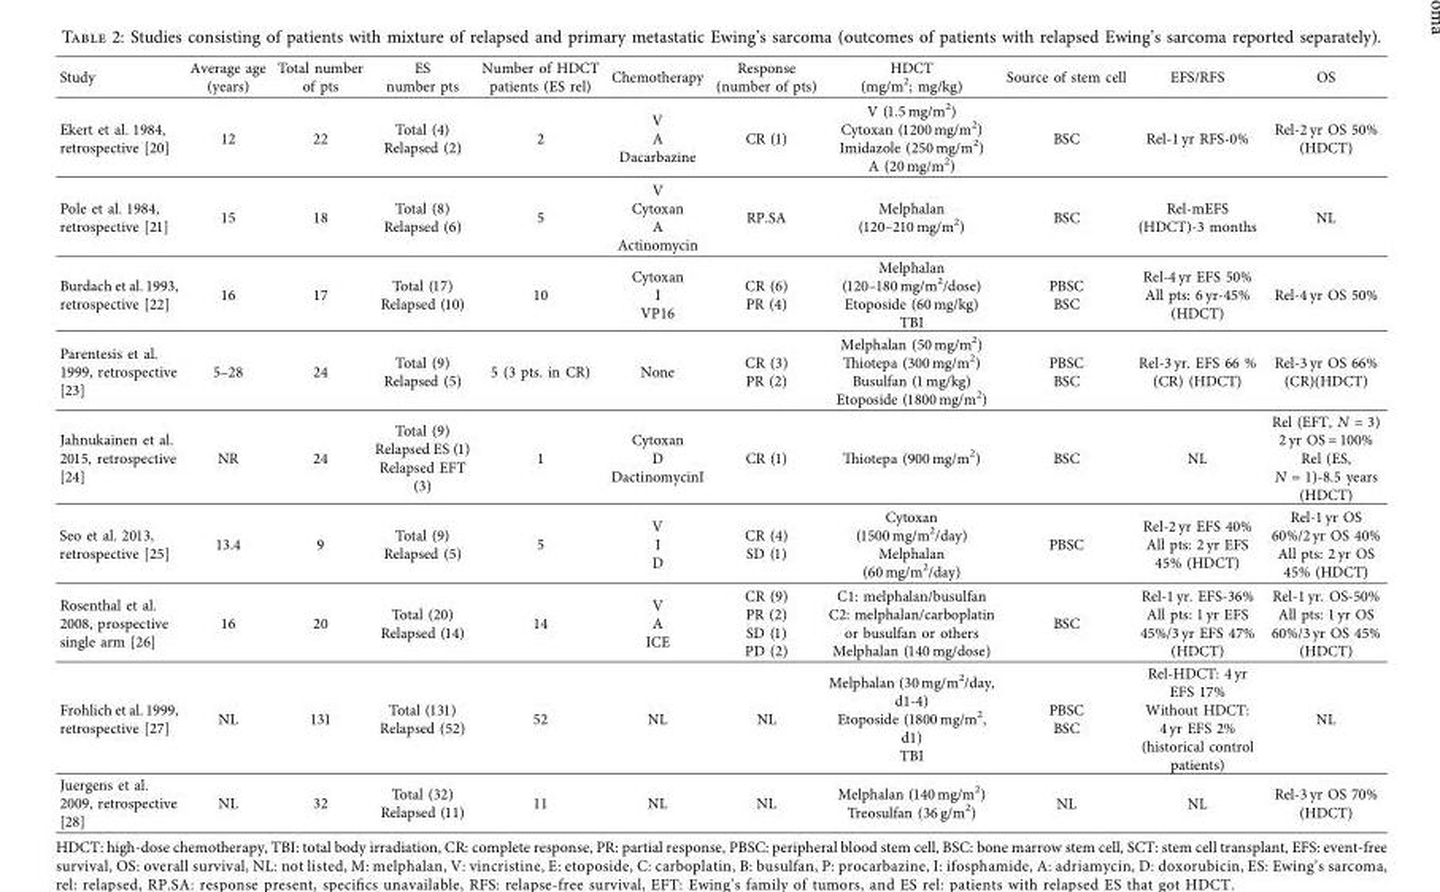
<table><thead><tr><td>Study</td><td>Average age (years)</td><td>Total number of pts</td><td>ES number pts</td><td>Number of HDCT patients (ES rel)</td><td>Chemotherapy</td><td>Response (number of pts)</td><td>HDCT (mg/m<sup>2</sup>; mg/kg)</td><td>Source of stem cell</td><td>EFS/RFS</td><td>OS</td></tr></thead><tbody><tr><td>Ekert et al. 1984, retrospective [20]</td><td>12</td><td>22</td><td>Total (4) Relapsed (2)</td><td>2</td><td>V A Dacarbazine</td><td>CR (1)</td><td>V (1.5 mg/m<sup>2</sup>) Cytoxan (1200 mg/m<sup>2</sup>) Imidazole (250 mg/m<sup>2</sup>) A (20 mg/m<sup>2</sup>)</td><td>BSC</td><td>Rel-1 yr RFS-0%</td><td>Rel-2 yr OS 50% (HDCT)</td></tr><tr><td>Pole et al. 1984, retrospective [21]</td><td>15</td><td>18</td><td>Total (8) Relapsed (6)</td><td>5</td><td>V Cytoxan A Actinomycin</td><td>RP.SA</td><td>Melphalan (120–210 mg/m<sup>2</sup>)</td><td>BSC</td><td>Rel-mEFS (HDCT)-3 months</td><td>NL</td></tr><tr><td>Burdach et al.1993, retrospective [22]</td><td>16</td><td>17</td><td>Total (17) Relapsed (10)</td><td>10</td><td>Cytoxan I VP16</td><td>CR (6) PR (4)</td><td>Melphalan (120–180 mg/m<sup>2</sup>/dose) Etoposide (60 mg/kg) TBI</td><td>PBSC BSC</td><td>Rel-4 yr EFS 50% All pts: 6 yr-45% (HDCT)</td><td>Rel-4 yr OS 50%</td></tr><tr><td>Parentesis et al. 1999, retrospective [23]</td><td>5–28</td><td>24</td><td>Total (9) Relapsed (5)</td><td>5 (3 pts. in CR)</td><td>None</td><td>CR (3) PR (2)</td><td>Melphalan (50 mg/m2) Tiotepa (300 mg/m2) Busulfan (1 mg/kg) Etoposide (1800 mg/m2)</td><td>PBSC BSC</td><td>Rel-3 yr. EFS 66 % (CR) (HDCT)</td><td>Rel-3 yr OS 66% (CR)(HDCT)</td></tr><tr><td>Jahnukainen et al. 2015, retrospective [24]</td><td>NR</td><td>24</td><td>Total (9) Relapsed ES (1) Relapsed EFT (3)</td><td>1</td><td>Cytoxan D DactinomycinI</td><td>CR (1)</td><td>Tiotepa (900 mg/m2)</td><td>BSC</td><td>NL</td><td>Rel (EFT, N = 3) 2 yr OS = 100% Rel (ES, N = 1)-8.5 years (HDCT)</td></tr><tr><td>Seo et al. 2013, retrospective [25]</td><td>13.4</td><td>9</td><td>Total (9) Relapsed (5)</td><td>5</td><td>V I D</td><td>CR (4) SD (1)</td><td>Cytoxan (1500 mg/m<sup>2</sup>/day) Melphalan (60 mg/m<sup>2</sup>/day)</td><td>PBSC</td><td>Rel-2 yr EFS 40% All pts: 2 yr EFS 45% (HDCT)</td><td>Rel-1 yr OS 60%/2 yr OS 40% All pts: 2 yr OS 45% (HDCT)</td></tr><tr><td>Rosenthal et al. 2008, prospective single arm [26]</td><td>16</td><td>20</td><td>Total (20) Relapsed (14)</td><td>14</td><td>V A ICE</td><td>CR (9) PR (2) SD (1) PD (2)</td><td>C1: melphalan/busulfan C2: melphalan/carboplatin or busulfan or others Melphalan (140 mg/dose)</td><td>BSC</td><td>Rel-1 yr. EFS-36% All pts: 1 yr EFS 45%/3 yr EFS 47% (HDCT)</td><td>Rel-1 yr. OS-50% All pts: 1 yr OS 60%/3 yr OS 45% (HDCT)</td></tr><tr><td>Frohlich et al.1999, retrospective [27]</td><td>NL</td><td>131</td><td>Total (131) Relapsed (52)</td><td>52</td><td>NL</td><td>NL</td><td>Melphalan (30 mg/m<sup>2</sup>/day, d1-4) Etoposide (1800 mg/m<sup>2</sup>, d1) TBI</td><td>PBSC BSC</td><td>Rel-HDCT: 4 yr EFS 17% Without HDCT: 4 yr EFS 2% (historical control patients)</td><td>NL</td></tr><tr><td>Juergens et al. 2009, retrospective [28]</td><td>NL</td><td>32</td><td>Total (32) Relapsed (11)</td><td>11</td><td>NL</td><td>NL</td><td>Melphalan (140 mg/m<sup>2</sup>) Treosulfan (36 g/m<sup>2</sup>)</td><td>NL</td><td>NL</td><td>Rel-3 yr OS 70% (HDCT)</td></tr></tbody></table>